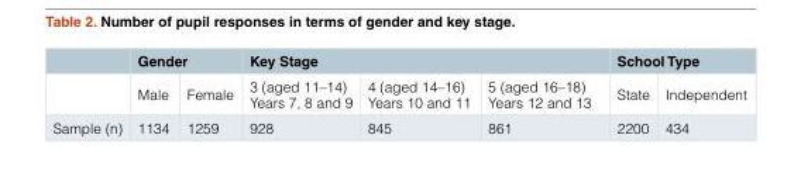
<table><thead><tr><td rowspan="2"></td><td colspan="2">Gender</td><td colspan="3">Key Stage</td><td colspan="2">School Type</td></tr><tr><td>Male</td><td>Female</td><td>3 (aged 11–14) Years 7, 8 and 9</td><td>4 (aged 14–16) Years 10 and 11</td><td>5 (aged 16–18) Years 12 and 13</td><td>State</td><td>Independent</td></tr></thead><tbody><tr><td>Sample (n)</td><td>1134</td><td>1259</td><td>928</td><td>845</td><td>861</td><td>2200</td><td>434</td></tr></tbody></table>